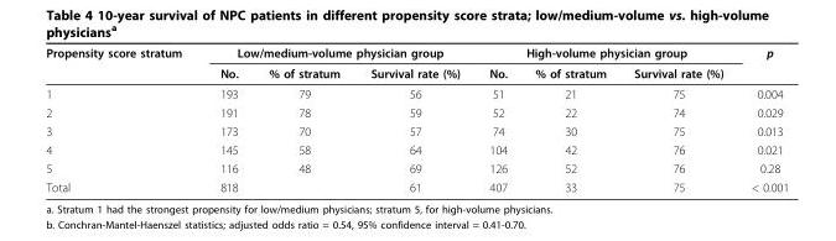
<table><thead><tr><td rowspan="2">Propensity score stratum</td><td colspan="3">Low/medium-volume physician group</td><td colspan="3">High-volume physician group</td><td rowspan="2">p</td></tr><tr><td>No.</td><td>% of stratum</td><td>Survival rate (%)</td><td>No.</td><td>% of stratum</td><td>Survival rate (%)</td></tr></thead><tbody><tr><td>1</td><td>193</td><td>79</td><td>56</td><td>51</td><td>21</td><td>75</td><td>0.004</td></tr><tr><td>2</td><td>191</td><td>78</td><td>59</td><td>52</td><td>22</td><td>74</td><td>0.029</td></tr><tr><td>3</td><td>173</td><td>70</td><td>57</td><td>74</td><td>30</td><td>75</td><td>0.013</td></tr><tr><td>4</td><td>145</td><td>58</td><td>64</td><td>104</td><td>42</td><td>76</td><td>0.021</td></tr><tr><td>5</td><td>116</td><td>48</td><td>69</td><td>126</td><td>52</td><td>76</td><td>0.28</td></tr><tr><td>Total</td><td>818</td><td></td><td>61</td><td>407</td><td>33</td><td>75</td><td>&lt; 0.001</td></tr></tbody></table>